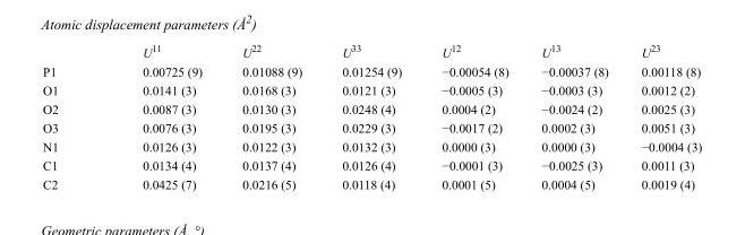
<table><thead><tr><td></td><td>U<sup>11</sup></td><td>U<sup>22</sup></td><td>U<sup>33</sup></td><td>U<sup>12</sup></td><td>U<sup>13</sup></td><td>U<sup>23</sup></td></tr></thead><tbody><tr><td>P1</td><td>0.00725 (9)</td><td>0.01088 (9)</td><td>0.01254 (9)</td><td>−0.00054 (8)</td><td>−0.00037 (8)</td><td>0.00118 (8)</td></tr><tr><td>O1</td><td>0.0141 (3)</td><td>0.0168 (3)</td><td>0.0121 (3)</td><td>−0.0005 (3)</td><td>−0.0003 (3)</td><td>0.0012 (2)</td></tr><tr><td>O2</td><td>0.0087 (3)</td><td>0.0130 (3)</td><td>0.0248 (4)</td><td>0.0004 (2)</td><td>−0.0024 (2)</td><td>0.0025 (3)</td></tr><tr><td>O3</td><td>0.0076 (3)</td><td>0.0195 (3)</td><td>0.0229 (3)</td><td>−0.0017 (2)</td><td>0.0002 (3)</td><td>0.0051 (3)</td></tr><tr><td>N1</td><td>0.0126 (3)</td><td>0.0122 (3)</td><td>0.0132 (3)</td><td>0.0000 (3)</td><td>0.0000 (3)</td><td>−0.0004 (3)</td></tr><tr><td>C1</td><td>0.0134 (4)</td><td>0.0137 (4)</td><td>0.0126 (4)</td><td>−0.0001 (3)</td><td>−0.0025 (3)</td><td>0.0011 (3)</td></tr><tr><td>C2</td><td>0.0425 (7)</td><td>0.0216 (5)</td><td>0.0118 (4)</td><td>0.0001 (5)</td><td>0.0004 (5)</td><td>0.0019 (4)</td></tr></tbody></table>